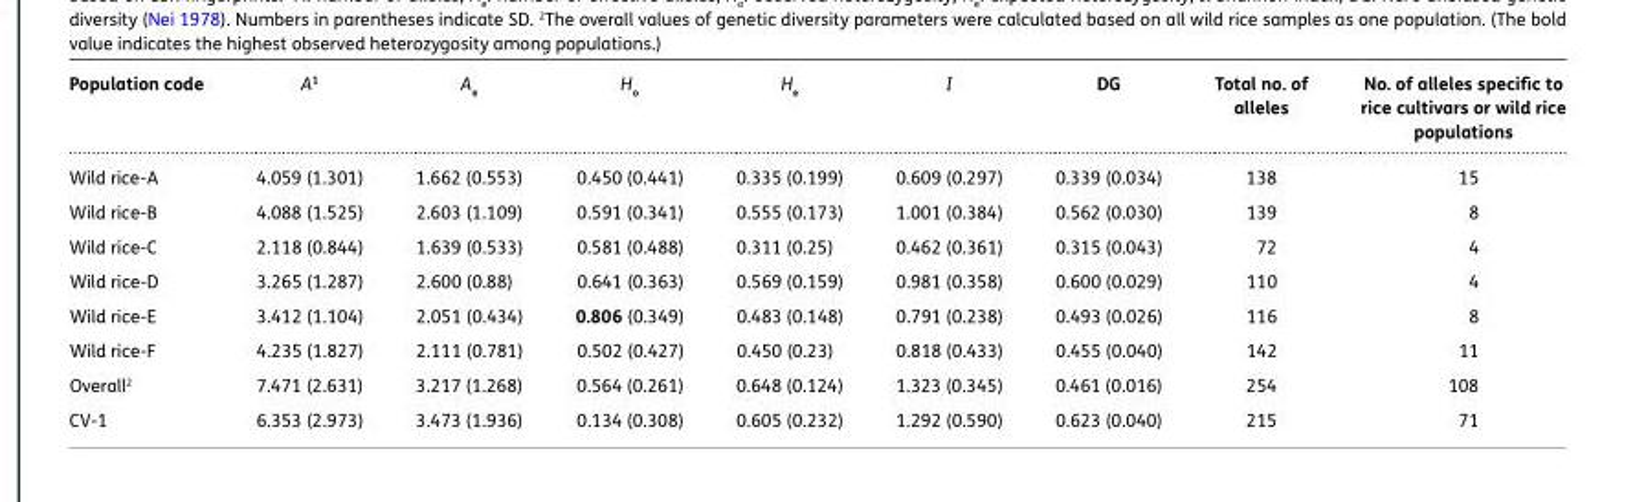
<table><thead><tr><td>Population code</td><td>A<sup>1</sup></td><td>A<sub>e</sub></td><td>H<sub>o</sub></td><td>H<sub>e</sub></td><td>I</td><td>DG</td><td>Total no. of alleles</td><td>No. of alleles specific to rice cultivars or wild rice populations</td></tr></thead><tbody><tr><td>Wild rice-A</td><td>4.059 (1.301)</td><td>1.662 (0.553)</td><td>0.450 (0.441)</td><td>0.335 (0.199)</td><td>0.609 (0.297)</td><td>0.339 (0.034)</td><td>138</td><td>15</td></tr><tr><td>Wild rice-B</td><td>4.088 (1.525)</td><td>2.603 (1.109)</td><td>0.591 (0.341)</td><td>0.555 (0.173)</td><td>1.001 (0.384)</td><td>0.562 (0.030)</td><td>139</td><td>8</td></tr><tr><td>Wild rice-C</td><td>2.118 (0.844)</td><td>1.639 (0.533)</td><td>0.581 (0.488)</td><td>0.311 (0.25)</td><td>0.462 (0.361)</td><td>0.315 (0.043)</td><td>72</td><td>4</td></tr><tr><td>Wild rice-D</td><td>3.265 (1.287)</td><td>2.600 (0.88)</td><td>0.641 (0.363)</td><td>0.569 (0.159)</td><td>0.981 (0.358)</td><td>0.600 (0.029)</td><td>110</td><td>4</td></tr><tr><td>Wild rice-E</td><td>3.412 (1.104)</td><td>2.051 (0.434)</td><td>0.806 (0.349)</td><td>0.483 (0.148)</td><td>0.791 (0.238)</td><td>0.493 (0.026)</td><td>116</td><td>8</td></tr><tr><td>Wild rice-F</td><td>4.235 (1.827)</td><td>2.111 (0.781)</td><td>0.502 (0.427)</td><td>0.450 (0.23)</td><td>0.818 (0.433)</td><td>0.455 (0.040)</td><td>142</td><td>11</td></tr><tr><td>Overall<sup>2</sup></td><td>7.471 (2.631)</td><td>3.217 (1.268)</td><td>0.564 (0.261)</td><td>0.648 (0.124)</td><td>1.323 (0.345)</td><td>0.461 (0.016)</td><td>254</td><td>108</td></tr><tr><td>CV-1</td><td>6.353 (2.973)</td><td>3.473 (1.936)</td><td>0.134 (0.308)</td><td>0.605 (0.232)</td><td>1.292 (0.590)</td><td>0.623 (0.040)</td><td>215</td><td>71</td></tr></tbody></table>